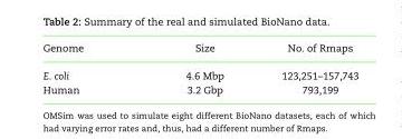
<table><thead><tr><td>Genome</td><td>Size</td><td>No. of Rmaps</td></tr></thead><tbody><tr><td>E. coli</td><td>4.6 Mbp</td><td>123,251–157,743</td></tr><tr><td>Human</td><td>3.2 Gbp</td><td>793,199</td></tr></tbody></table>